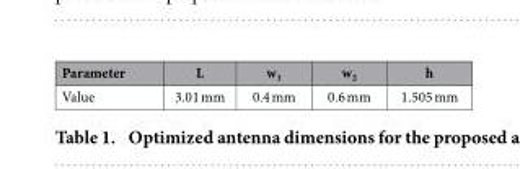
<table><thead><tr><td>Parameter</td><td>L</td><td>w<sub>1</sub></td><td>w<sub>2</sub></td><td>h</td></tr></thead><tbody><tr><td>Value</td><td>3.01 mm</td><td>0.4 mm</td><td>0.6 mm</td><td>1.505 mm</td></tr></tbody></table>